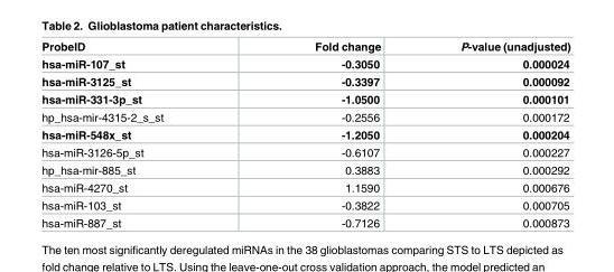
<table><thead><tr><td>ProbeID</td><td>Fold change</td><td>P-value (unadjusted)</td></tr></thead><tbody><tr><td>hsa-miR-107_st</td><td>-0.3050</td><td>0.000024</td></tr><tr><td>hsa-miR-3125_st</td><td>-0.3397</td><td>0.000092</td></tr><tr><td>hsa-miR-331-3p_st</td><td>-1.0500</td><td>0.000101</td></tr><tr><td>hp_hsa-mir-4315-2_s_st</td><td>-0.2556</td><td>0.000172</td></tr><tr><td>hsa-miR-548x_st</td><td>-1.2050</td><td>0.000204</td></tr><tr><td>hsa-miR-3126-5p_st</td><td>-0.6107</td><td>0.000227</td></tr><tr><td>hp_hsa-mir-885_st</td><td>0.3883</td><td>0.000292</td></tr><tr><td>hsa-miR-4270_st</td><td>1.1590</td><td>0.000676</td></tr><tr><td>hsa-miR-103_st</td><td>-0.3822</td><td>0.000705</td></tr><tr><td>hsa-miR-887_st</td><td>-0.7126</td><td>0.000873</td></tr></tbody></table>